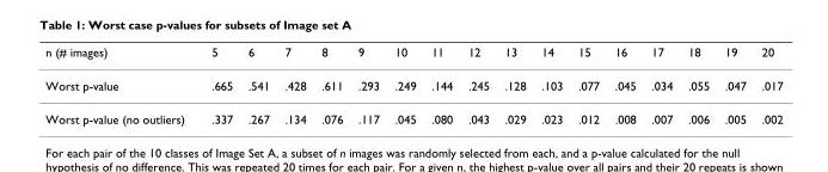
<table><thead><tr><td>n (# images)</td><td>5</td><td>6</td><td>7</td><td>8</td><td>9</td><td>10</td><td>11</td><td>12</td><td>13</td><td>14</td><td>15</td><td>16</td><td>17</td><td>18</td><td>19</td><td>20</td></tr></thead><tbody><tr><td>Worst p-value</td><td>.665</td><td>.541</td><td>.428</td><td>.611</td><td>.293</td><td>.249</td><td>.144</td><td>.245</td><td>.128</td><td>.103</td><td>.077</td><td>.045</td><td>.034</td><td>.055</td><td>.047</td><td>.017</td></tr><tr><td>Worst p-value (no outliers)</td><td>.337</td><td>.267</td><td>.134</td><td>.076</td><td>.117</td><td>.045</td><td>.080</td><td>.043</td><td>.029</td><td>.023</td><td>.012</td><td>.008</td><td>.007</td><td>.006</td><td>.005</td><td>.002</td></tr></tbody></table>